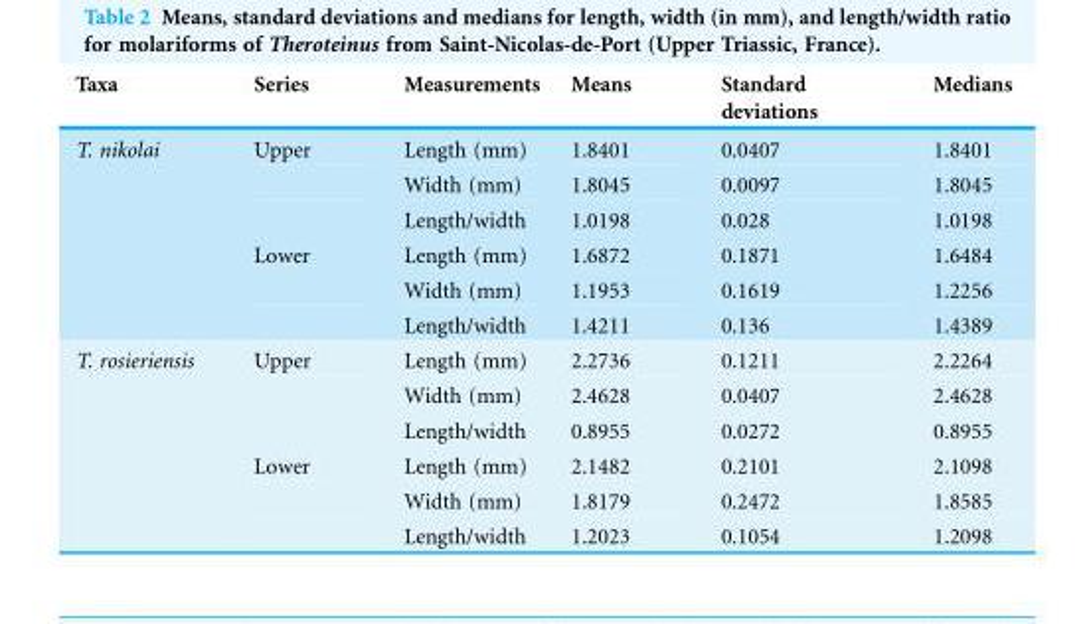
<table><thead><tr><td>Taxa</td><td>Series</td><td>Measurements</td><td>Means</td><td>Standard deviations</td><td>Medians</td></tr></thead><tbody><tr><td rowspan="6">T. nikolai</td><td>Upper</td><td>Length (mm)</td><td>1.8401</td><td>0.0407</td><td>1.8401</td></tr><tr><td></td><td>Width (mm)</td><td>1.8045</td><td>0.0097</td><td>1.8045</td></tr><tr><td></td><td>Length/width</td><td>1.0198</td><td>0.028</td><td>1.0198</td></tr><tr><td>Lower</td><td>Length (mm)</td><td>1.6872</td><td>0.1871</td><td>1.6484</td></tr><tr><td></td><td>Width (mm)</td><td>1.1953</td><td>0.1619</td><td>1.2256</td></tr><tr><td></td><td>Length/width</td><td>1.4211</td><td>0.136</td><td>1.4389</td></tr><tr><td rowspan="6">T. rosieriensis</td><td>Upper</td><td>Length (mm)</td><td>2.2736</td><td>0.1211</td><td>2.2264</td></tr><tr><td></td><td>Width (mm)</td><td>2.4628</td><td>0.0407</td><td>2.4628</td></tr><tr><td></td><td>Length/width</td><td>0.8955</td><td>0.0272</td><td>0.8955</td></tr><tr><td>Lower</td><td>Length (mm)</td><td>2.1482</td><td>0.2101</td><td>2.1098</td></tr><tr><td></td><td>Width (mm)</td><td>1.8179</td><td>0.2472</td><td>1.8585</td></tr><tr><td></td><td>Length/width</td><td>1.2023</td><td>0.1054</td><td>1.2098</td></tr></tbody></table>